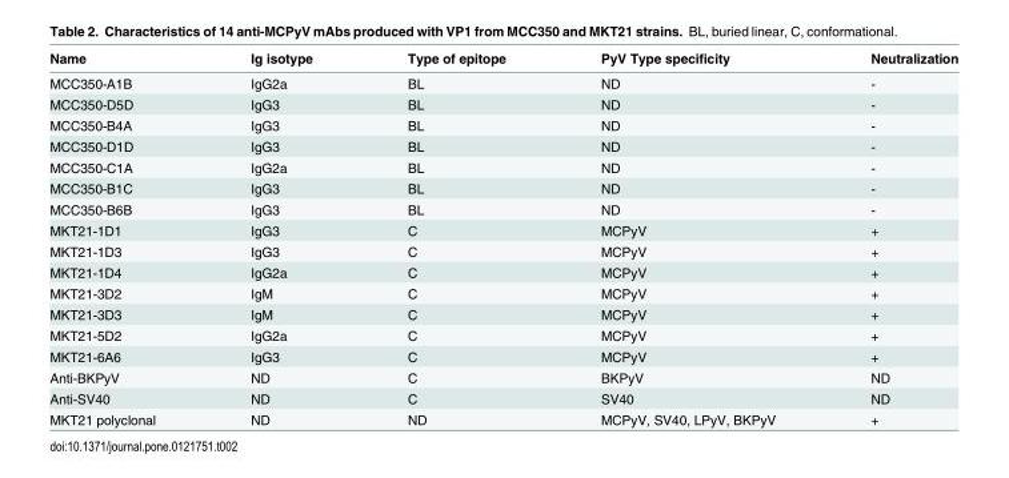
<table><thead><tr><td>Name</td><td>Ig isotype</td><td>Type of epitope</td><td>PyV Type specificity</td><td>Neutralization</td></tr></thead><tbody><tr><td>MCC350-A1B</td><td>IgG2a</td><td>BL</td><td>ND</td><td>-</td></tr><tr><td>MCC350-D5D</td><td>IgG3</td><td>BL</td><td>ND</td><td>-</td></tr><tr><td>MCC350-B4A</td><td>IgG3</td><td>BL</td><td>ND</td><td>-</td></tr><tr><td>MCC350-D1D</td><td>IgG3</td><td>BL</td><td>ND</td><td>-</td></tr><tr><td>MCC350-C1A</td><td>IgG2a</td><td>BL</td><td>ND</td><td>-</td></tr><tr><td>MCC350-B1C</td><td>IgG3</td><td>BL</td><td>ND</td><td>-</td></tr><tr><td>MCC350-B6B</td><td>IgG3</td><td>BL</td><td>ND</td><td>-</td></tr><tr><td>MKT21-1D1</td><td>IgG3</td><td>C</td><td>MCPyV</td><td>+</td></tr><tr><td>MKT21-1D3</td><td>IgG3</td><td>C</td><td>MCPyV</td><td>+</td></tr><tr><td>MKT21-1D4</td><td>IgG2a</td><td>C</td><td>MCPyV</td><td>+</td></tr><tr><td>MKT21-3D2</td><td>IgM</td><td>C</td><td>MCPyV</td><td>+</td></tr><tr><td>MKT21-3D3</td><td>IgM</td><td>C</td><td>MCPyV</td><td>+</td></tr><tr><td>MKT21-5D2</td><td>IgG2a</td><td>C</td><td>MCPyV</td><td>+</td></tr><tr><td>MKT21-6A6</td><td>IgG3</td><td>C</td><td>MCPyV</td><td>+</td></tr><tr><td>Anti-BKPyV</td><td>ND</td><td>C</td><td>BKPyV</td><td>ND</td></tr><tr><td>Anti-SV40</td><td>ND</td><td>C</td><td>SV40</td><td>ND</td></tr><tr><td>MKT21 polyclonal</td><td>ND</td><td>ND</td><td>MCPyV, SV40, LPyV, BKPyV</td><td>+</td></tr></tbody></table>